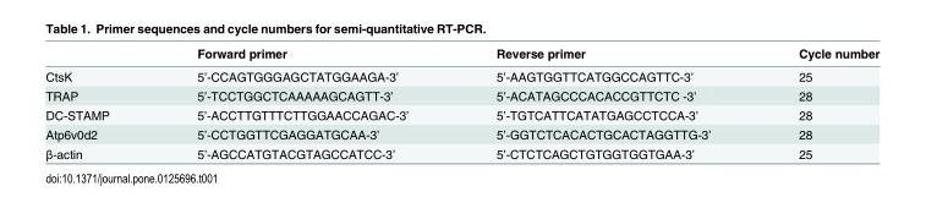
<table><thead><tr><td></td><td>Forward primer</td><td>Reverse primer</td><td>Cycle number</td></tr></thead><tbody><tr><td>CtsK</td><td>5’-CCAGTGGGAGCTATGGAAGA-3’</td><td>5’-AAGTGGTTCATGGCCAGTTC-3’</td><td>25</td></tr><tr><td>TRAP</td><td>5’-TCCTGGCTCAAAAAGCAGTT-3’</td><td>5’-ACATAGCCCACACCGTTCTC -3’</td><td>28</td></tr><tr><td>DC-STAMP</td><td>5’-ACCTTGTTTCTTGGAACCAGAC-3’</td><td>5’-TGTCATTCATATGAGCCTCCA-3’</td><td>28</td></tr><tr><td>Atp6v0d2</td><td>5’-CCTGGTTCGAGGATGCAA-3’</td><td>5’-GGTCTCACACTGCACTAGGTTG-3’</td><td>28</td></tr><tr><td>β-actin</td><td>5’-AGCCATGTACGTAGCCATCC-3’</td><td>5’-CTCTCAGCTGTGGTGGTGAA-3’</td><td>25</td></tr></tbody></table>